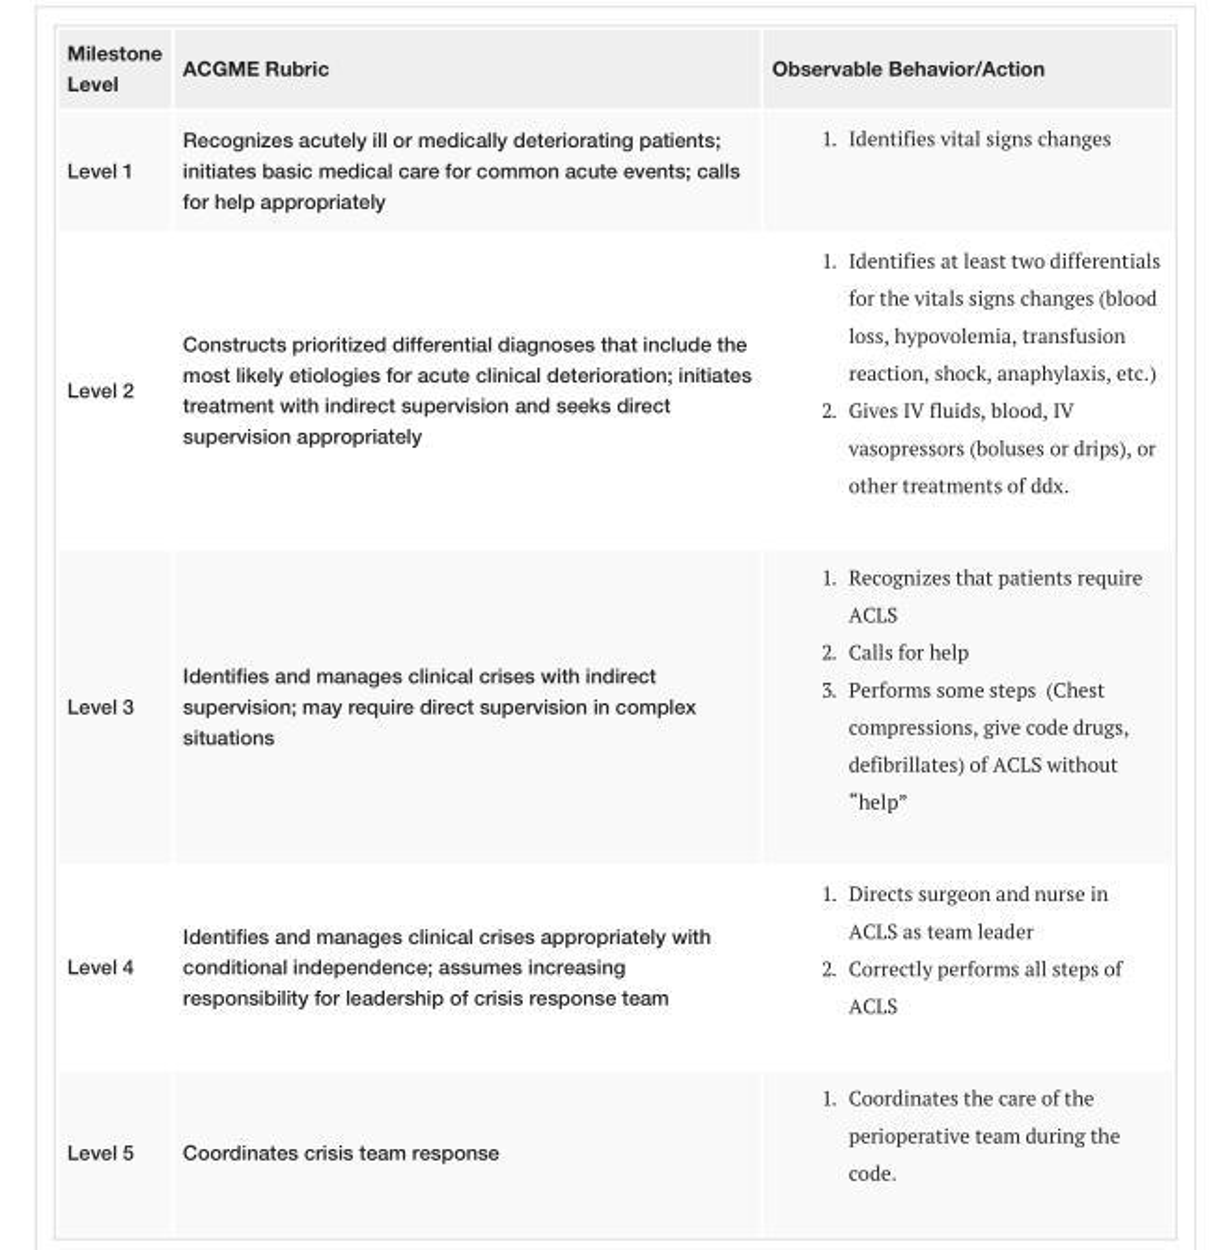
<table><tbody><tr><td>Level</td><td>ACGME Rubric</td><td>Observable Behavior/Action</td></tr><tr><td>Level 1</td><td>Recognizes acutely ill or medically deteriorating patients; initiates basic medical care for common acute events; calls for help appropriately</td><td>1. Identifies vital signs changes</td></tr><tr><td>Level 2</td><td>Constructs prioritized differential diagnoses that include the most likely etiologies for acute clinical deterioration; initiates treatment with indirect supervision and seeks direct supervision appropriately</td><td>1. Identifies at least two differentials for the vitals signs changes (blood loss, hypovolemia, transfusion reaction, shock, anaphylaxis, etc.) 2. Gives IV fluids, blood, IV vasopressors (boluses or drips), or other treatments of ddx.</td></tr><tr><td>Level 3</td><td>Identifies and manages clinical crises with indirect supervision; may require direct supervision in complex situations</td><td>1. Recognizes that patients require ACLS 2. Calls for help 3. Performs some steps (Chest compressions, give code drugs, defibrillates) of ACLS without “help”</td></tr><tr><td>Level 4</td><td>Identifies and manages clinical crises appropriately with conditional independence; assumes increasing responsibility for leadership of crisis response team</td><td>1. Directs surgeon and nurse in ACLS as team leader 2. Correctly performs all steps of ACLS</td></tr><tr><td>Level 5</td><td>Coordinates crisis team response</td><td>1. Coordinates the care of the perioperative team during the code.</td></tr></tbody></table>